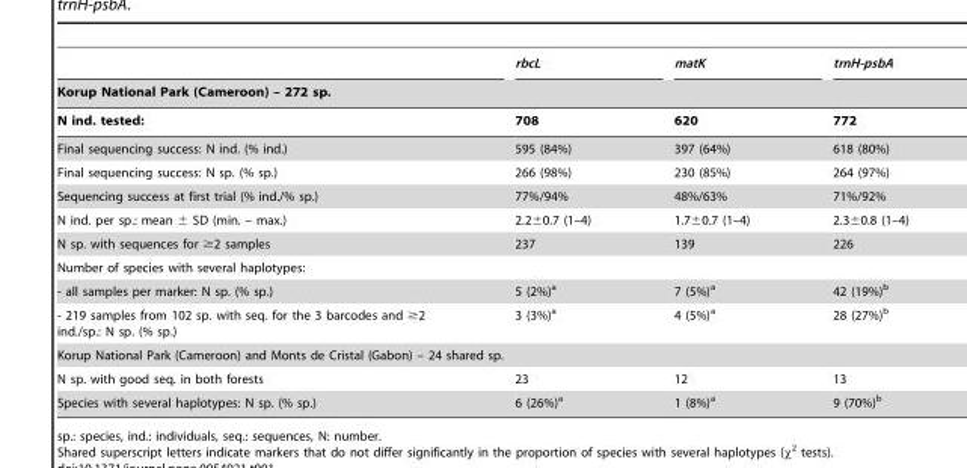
<table><thead><tr><td></td><td>rbcL</td><td>matK</td><td>trnH-psbA</td></tr><tr><td colspan="4">Korup National Park (Cameroon) – 272 sp.</td></tr><tr><td>N ind. tested:</td><td>708</td><td>620</td><td>772</td></tr></thead><tbody><tr><td>Final sequencing success: N ind. (% ind.)</td><td>595 (84%)</td><td>397 (64%)</td><td>618 (80%)</td></tr><tr><td>Final sequencing success: N sp. (% sp.)</td><td>266 (98%)</td><td>230 (85%)</td><td>264 (97%)</td></tr><tr><td>Sequencing success at first trial (% ind./% sp.)</td><td>77%/94%</td><td>48%/63%</td><td>71%/92%</td></tr><tr><td>N ind. per sp.: mean ± SD (min. – max.)</td><td>2.2±0.7 (1–4)</td><td>1.7±0.7 (1–4)</td><td>2.3±0.8 (1–4)</td></tr><tr><td>N sp. with sequences for ≥2 samples</td><td>237</td><td>139</td><td>226</td></tr><tr><td colspan="4">Number of species with several haplotypes:</td></tr><tr><td>- all samples per marker: N sp. (% sp.)</td><td>5 (2%)<sup>a</sup></td><td>7 (5%)<sup>a</sup></td><td>42 (19%)<sup>b</sup></td></tr><tr><td>- 219 samples from 102 sp. with seq. for the 3 barcodes and ≥2 ind./sp.: N sp. (% sp.)</td><td>3 (3%)<sup>a</sup></td><td>4 (5%)<sup>a</sup></td><td>28 (27%)<sup>b</sup></td></tr><tr><td colspan="4">Korup National Park (Cameroon) and Monts de Cristal (Gabon) – 24 shared sp.</td></tr><tr><td>N sp. with good seq. in both forests</td><td>23</td><td>12</td><td>13</td></tr><tr><td>Species with several haplotypes: N sp. (% sp.)</td><td>6 (26%)<sup>a</sup></td><td>1 (8%)<sup>a</sup></td><td>9 (70%)<sup>b</sup></td></tr></tbody></table>